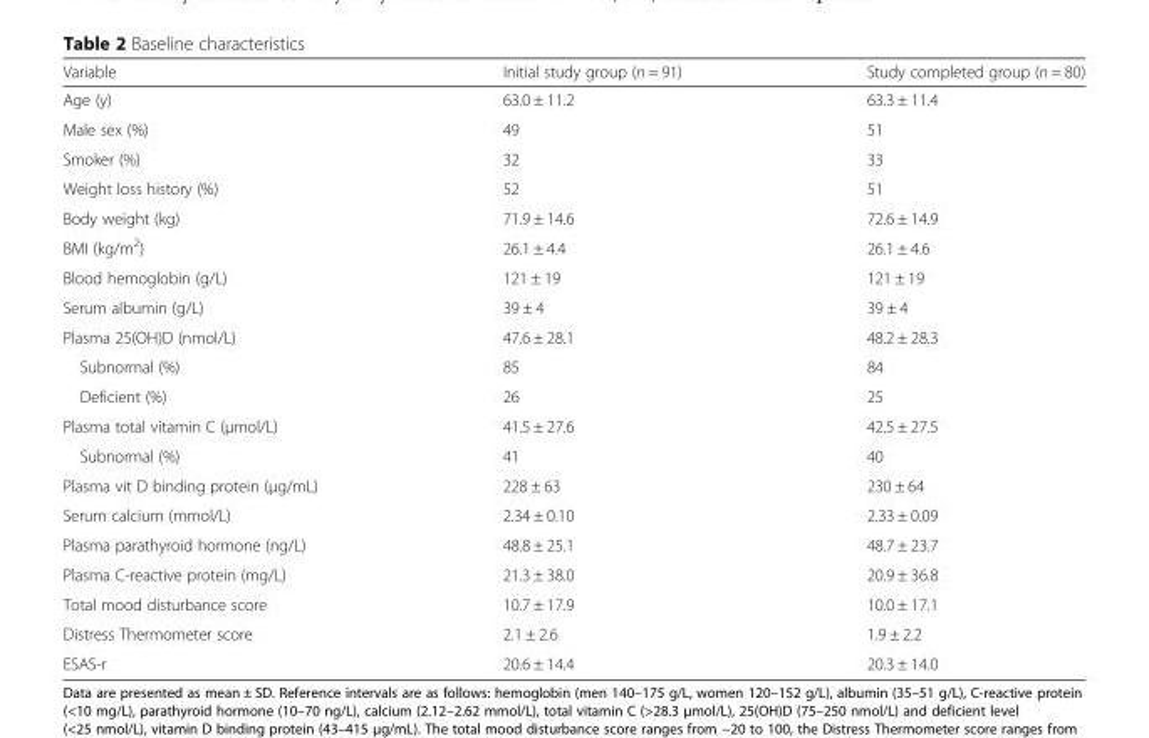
<table><thead><tr><td>Variable</td><td>Initial study group (n = 91)</td><td>Study completed group (n = 80)</td></tr></thead><tbody><tr><td>Age (y)</td><td>63.0 ± 11.2</td><td>63.3 ± 11.4</td></tr><tr><td>Male sex (%)</td><td>49</td><td>51</td></tr><tr><td>Smoker (%)</td><td>32</td><td>33</td></tr><tr><td>Weight loss history (%)</td><td>52</td><td>51</td></tr><tr><td>Body weight (kg)</td><td>71.9 ± 14.6</td><td>72.6 ± 14.9</td></tr><tr><td>BMI (kg/m<sup>2</sup>)</td><td>26.1 ± 4.4</td><td>26.1 ± 4.6</td></tr><tr><td>Blood hemoglobin (g/L)</td><td>121 ± 19</td><td>121 ± 19</td></tr><tr><td>Serum albumin (g/L)</td><td>39 ± 4</td><td>39 ± 4</td></tr><tr><td>Plasma 25(OH)D (nmol/L)</td><td>47.6 ± 28.1</td><td>48.2 ± 28.3</td></tr><tr><td>Subnormal (%)</td><td>85</td><td>84</td></tr><tr><td>Deficient (%)</td><td>26</td><td>25</td></tr><tr><td>Plasma total vitamin C (μmol/L)</td><td>41.5 ± 27.6</td><td>42.5 ± 27.5</td></tr><tr><td>Subnormal (%)</td><td>41</td><td>40</td></tr><tr><td>Plasma vit D binding protein (μg/mL)</td><td>228 ± 63</td><td>230 ± 64</td></tr><tr><td>Serum calcium (mmol/L)</td><td>2.34 ± 0.10</td><td>2.33 ± 0.09</td></tr><tr><td>Plasma parathyroid hormone (ng/L)</td><td>48.8 ± 25.1</td><td>48.7 ± 23.7</td></tr><tr><td>Plasma C-reactive protein (mg/L)</td><td>21.3 ± 38.0</td><td>20.9 ± 36.8</td></tr><tr><td>Total mood disturbance score</td><td>10.7 ± 17.9</td><td>10.0 ± 17.1</td></tr><tr><td>Distress Thermometer score</td><td>2.1 ± 2.6</td><td>1.9 ± 2.2</td></tr><tr><td>ESAS-r</td><td>20.6 ± 14.4</td><td>20.3 ± 14.0</td></tr></tbody></table>